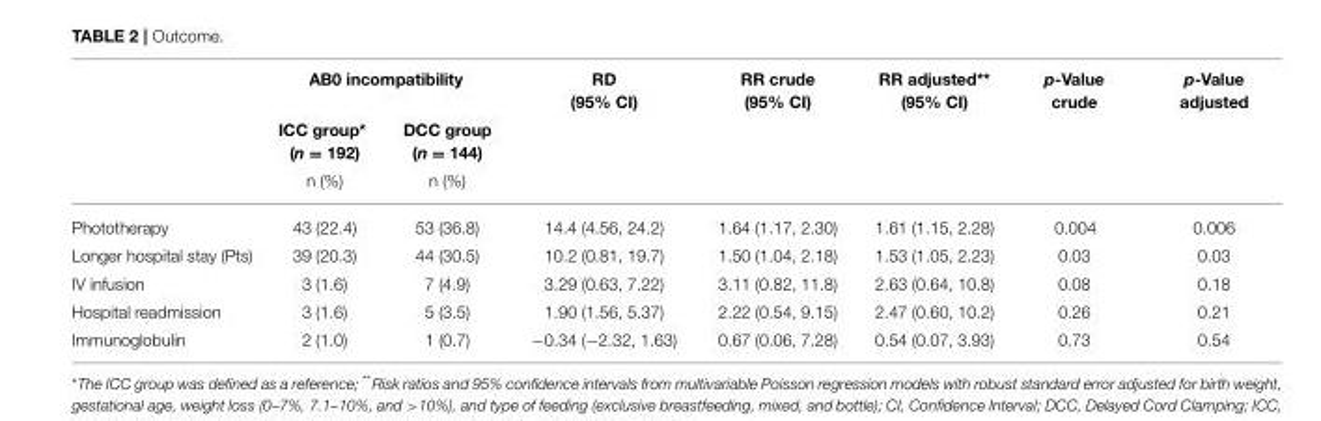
<table><thead><tr><td rowspan="3"></td><td colspan="2">AB0 incompatibility</td><td rowspan="3">RD (95% CI)</td><td rowspan="3">RR crude (95% CI)</td><td rowspan="3">RR adjusted** (95% CI)</td><td rowspan="3">p-Value crude</td><td rowspan="3">p-Value adjusted</td></tr><tr><td rowspan="2">ICC group* (n = 192) n (%)</td><td rowspan="2">DCC group (n = 144) n (%)</td></tr><tr></tr></thead><tbody><tr><td>Phototherapy</td><td>43 (22.4)</td><td>53 (36.8)</td><td>14.4 (4.56, 24.2)</td><td>1.64 (1.17, 2.30)</td><td>1.61 (1.15, 2.28)</td><td>0.004</td><td>0.006</td></tr><tr><td>Longer hospital stay (Pts)</td><td>39 (20.3)</td><td>44 (30.5)</td><td>10.2 (0.81, 19.7)</td><td>1.50 (1.04, 2.18)</td><td>1.53 (1.05, 2.23)</td><td>0.03</td><td>0.03</td></tr><tr><td>IV infusion</td><td>3 (1.6)</td><td>7 (4.9)</td><td>3.29 (0.63, 7.22)</td><td>3.11 (0.82, 11.8)</td><td>2.63 (0.64, 10.8)</td><td>0.08</td><td>0.18</td></tr><tr><td>Hospital readmission</td><td>3 (1.6)</td><td>5 (3.5)</td><td>1.90 (1.56, 5.37)</td><td>2.22 (0.54, 9.15)</td><td>2.47 (0.60, 10.2)</td><td>0.26</td><td>0.21</td></tr><tr><td>Immunoglobulin</td><td>2 (1.0)</td><td>1 (0.7)</td><td>−0.34 (−2.32, 1.63)</td><td>0.67 (0.06, 7.28)</td><td>0.54 (0.07, 3.93)</td><td>0.73</td><td>0.54</td></tr></tbody></table>